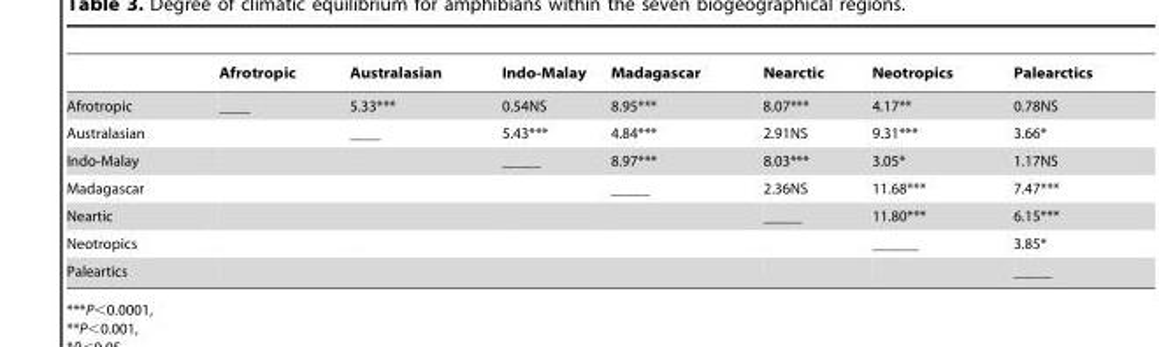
<table><thead><tr><td></td><td>Afrotropic</td><td>Australasian</td><td>Indo-Malay</td><td>Madagascar</td><td>Nearctic</td><td>Neotropics</td><td>Palearctics</td></tr></thead><tbody><tr><td>Afrotropic</td><td>____</td><td>5.33***</td><td>0.54NS</td><td>8.95***</td><td>8.07***</td><td>4.17**</td><td>0.78NS</td></tr><tr><td>Australasian</td><td></td><td>____</td><td>5.43***</td><td>4.84***</td><td>2.91NS</td><td>9.31***</td><td>3.66*</td></tr><tr><td>Indo-Malay</td><td></td><td></td><td>_____</td><td>8.97***</td><td>8.03***</td><td>3.05*</td><td>1.17NS</td></tr><tr><td>Madagascar</td><td></td><td></td><td></td><td>_____</td><td>2.36NS</td><td>11.68***</td><td>7.47***</td></tr><tr><td>Neartic</td><td></td><td></td><td></td><td></td><td>_____</td><td>11.80***</td><td>6.15***</td></tr><tr><td>Neotropics</td><td></td><td></td><td></td><td></td><td></td><td>______</td><td>3.85*</td></tr><tr><td>Paleartics</td><td></td><td></td><td></td><td></td><td></td><td></td><td>_____</td></tr></tbody></table>